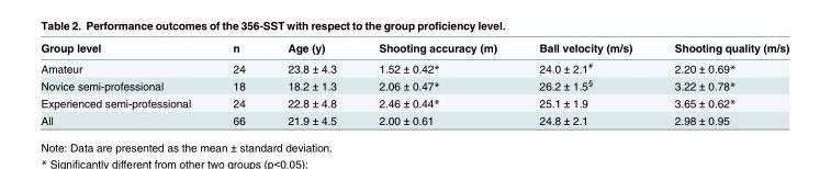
<table><thead><tr><td>Group level</td><td>n</td><td>Age (y)</td><td>Shooting accuracy (m)</td><td>Ball velocity (m/s)</td><td>Shooting quality (m/s)</td></tr></thead><tbody><tr><td>Amateur</td><td>24</td><td>23.8 ± 4.3</td><td>1.52 ± 0.42*</td><td>24.0 ± 2.1<sup>#</sup></td><td>2.20 ± 0.69*</td></tr><tr><td>Novice semi-professional</td><td>18</td><td>18.2 ± 1.3</td><td>2.06 ± 0.47*</td><td>26.2 ± 1.5<sup>§</sup></td><td>3.22 ± 0.78*</td></tr><tr><td>Experienced semi-professional</td><td>24</td><td>22.8 ± 4.8</td><td>2.46 ± 0.44*</td><td>25.1 ± 1.9</td><td>3.65 ± 0.62*</td></tr><tr><td>All</td><td>66</td><td>21.9 ± 4.5</td><td>2.00 ± 0.61</td><td>24.8 ± 2.1</td><td>2.98 ± 0.95</td></tr></tbody></table>